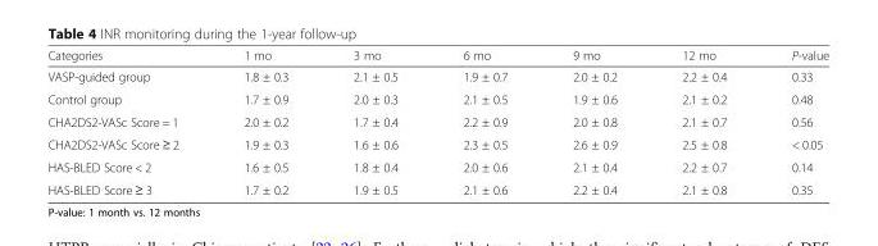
<table><thead><tr><td>Categories</td><td>1 mo</td><td>3 mo</td><td>6 mo</td><td>9 mo</td><td>12 mo</td><td>P-value</td></tr></thead><tbody><tr><td>VASP-guided group</td><td>1.8 ± 0.3</td><td>2.1 ± 0.5</td><td>1.9 ± 0.7</td><td>2.0 ± 0.2</td><td>2.2 ± 0.4</td><td>0.33</td></tr><tr><td>Control group</td><td>1.7 ± 0.9</td><td>2.0 ± 0.3</td><td>2.1 ± 0.5</td><td>1.9 ± 0.6</td><td>2.1 ± 0.2</td><td>0.48</td></tr><tr><td>CHA2DS2-VASc Score = 1</td><td>2.0 ± 0.2</td><td>1.7 ± 0.4</td><td>2.2 ± 0.9</td><td>2.0 ± 0.8</td><td>2.1 ± 0.7</td><td>0.56</td></tr><tr><td>CHA2DS2-VASc Score ≥ 2</td><td>1.9 ± 0.3</td><td>1.6 ± 0.6</td><td>2.3 ± 0.5</td><td>2.6 ± 0.9</td><td>2.5 ± 0.8</td><td>&lt; 0.05</td></tr><tr><td>HAS-BLED Score &lt; 2</td><td>1.6 ± 0.5</td><td>1.8 ± 0.4</td><td>2.0 ± 0.6</td><td>2.1 ± 0.4</td><td>2.2 ± 0.7</td><td>0.14</td></tr><tr><td>HAS-BLED Score ≥ 3</td><td>1.7 ± 0.2</td><td>1.9 ± 0.5</td><td>2.1 ± 0.6</td><td>2.2 ± 0.4</td><td>2.1 ± 0.8</td><td>0.35</td></tr></tbody></table>